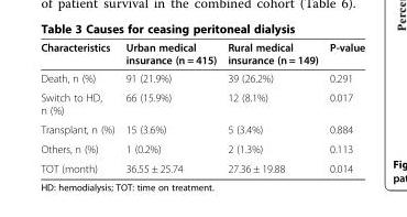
<table><thead><tr><td>Characteristics</td><td>Urban medical insurance (n = 415)</td><td>Rural medical insurance (n = 149)</td><td>P-value</td></tr></thead><tbody><tr><td>Death, n (%)</td><td>91 (21.9%)</td><td>39 (26.2%)</td><td>0.291</td></tr><tr><td>Switch to HD, n (%)</td><td>66 (15.9%)</td><td>12 (8.1%)</td><td>0.017</td></tr><tr><td>Transplant, n (%)</td><td>15 (3.6%)</td><td>5 (3.4%)</td><td>0.884</td></tr><tr><td>Others, n (%)</td><td>1 (0.2%)</td><td>2 (1.3%)</td><td>0.113</td></tr><tr><td>TOT (month)</td><td>36.55 ± 25.74</td><td>27.36 ± 19.88</td><td>0.014</td></tr></tbody></table>